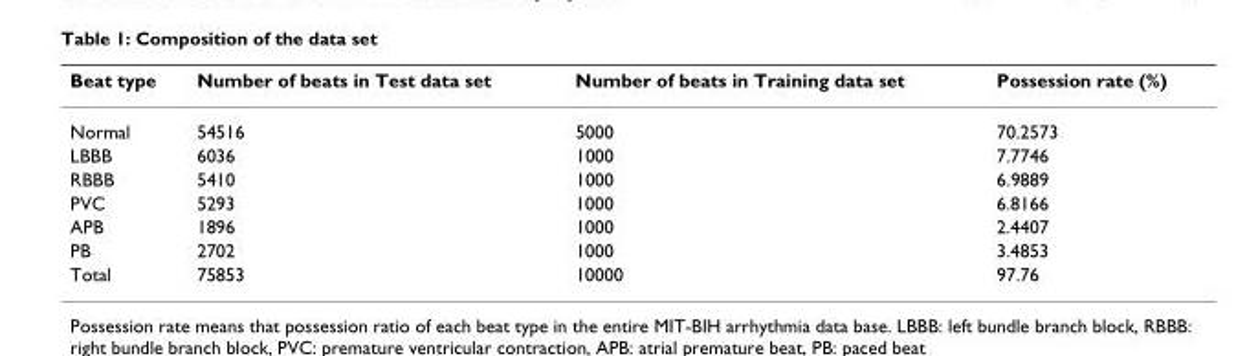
<table><thead><tr><td>Beat type</td><td>Number of beats in Test data set</td><td>Number of beats in Training data set</td><td>Possession rate (%)</td></tr></thead><tbody><tr><td>Normal</td><td>54516</td><td>5000</td><td>70.2573</td></tr><tr><td>LBBB</td><td>6036</td><td>1000</td><td>7.7746</td></tr><tr><td>RBBB</td><td>5410</td><td>1000</td><td>6.9889</td></tr><tr><td>PVC</td><td>5293</td><td>1000</td><td>6.8166</td></tr><tr><td>APB</td><td>1896</td><td>1000</td><td>2.4407</td></tr><tr><td>PB</td><td>2702</td><td>1000</td><td>3.4853</td></tr><tr><td>Total</td><td>75853</td><td>10000</td><td>97.76</td></tr></tbody></table>